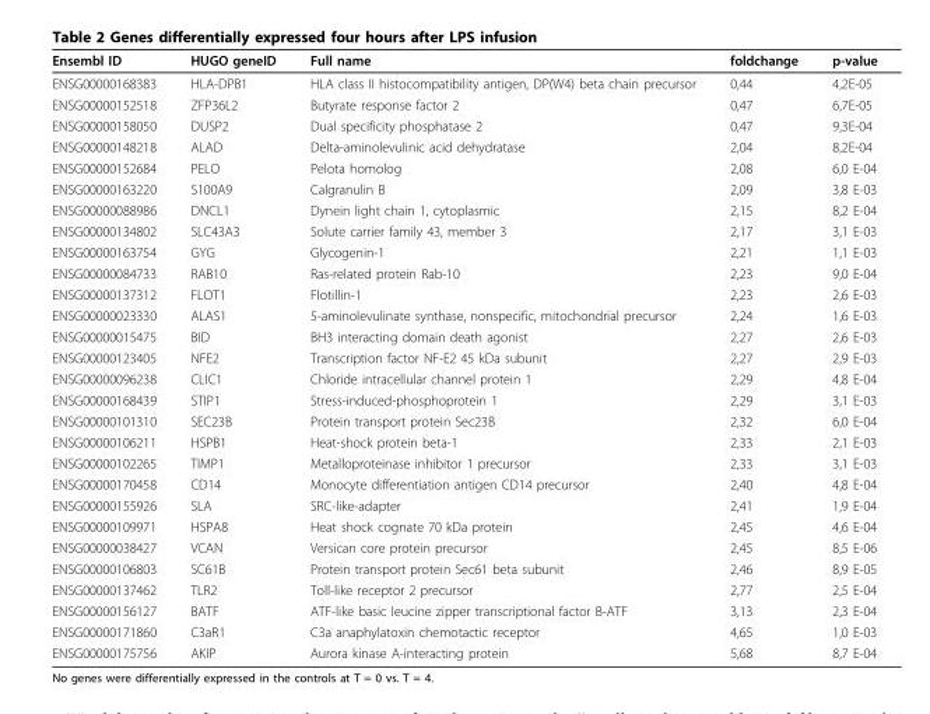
<table><thead><tr><td>Ensembl ID</td><td>HUGO geneID</td><td>Full name</td><td>foldchange</td><td>p-value</td></tr></thead><tbody><tr><td>ENSG00000168383</td><td>HLA-DPB1</td><td>HLA class II histocompatibility antigen, DP(W4) beta chain precursor</td><td>0,44</td><td>4,2E-05</td></tr><tr><td>ENSG00000152518</td><td>ZFP36L2</td><td>Butyrate response factor 2</td><td>0,47</td><td>6,7E-05</td></tr><tr><td>ENSG00000158050</td><td>DUSP2</td><td>Dual specificity phosphatase 2</td><td>0,47</td><td>9,3E-04</td></tr><tr><td>ENSG00000148218</td><td>ALAD</td><td>Delta-aminolevulinic acid dehydratase</td><td>2,04</td><td>8,2E-04</td></tr><tr><td>ENSG00000152684</td><td>PELO</td><td>Pelota homolog</td><td>2,08</td><td>6,0 E-04</td></tr><tr><td>ENSG00000163220</td><td>S100A9</td><td>Calgranulin B</td><td>2,09</td><td>3,8 E-03</td></tr><tr><td>ENSG00000088986</td><td>DNCL1</td><td>Dynein light chain 1, cytoplasmic</td><td>2,15</td><td>8,2 E-04</td></tr><tr><td>ENSG00000134802</td><td>SLC43A3</td><td>Solute carrier family 43, member 3</td><td>2,17</td><td>3,1 E-03</td></tr><tr><td>ENSG00000163754</td><td>GYG</td><td>Glycogenin-1</td><td>2,21</td><td>1,1 E-03</td></tr><tr><td>ENSG00000084733</td><td>RAB10</td><td>Ras-related protein Rab-10</td><td>2,23</td><td>9,0 E-04</td></tr><tr><td>ENSG00000137312</td><td>FLOT1</td><td>Flotillin-1</td><td>2,23</td><td>2,6 E-03</td></tr><tr><td>ENSG00000023330</td><td>ALAS1</td><td>5-aminolevulinate synthase, nonspecific, mitochondrial precursor</td><td>2,24</td><td>1,6 E-03</td></tr><tr><td>ENSG00000015475</td><td>BID</td><td>BH3 interacting domain death agonist</td><td>2,27</td><td>2,6 E-03</td></tr><tr><td>ENSG00000123405</td><td>NFE2</td><td>Transcription factor NF-E2 45 kDa subunit</td><td>2,27</td><td>2,9 E-03</td></tr><tr><td>ENSG00000096238</td><td>CLIC1</td><td>Chloride intracellular channel protein 1</td><td>2,29</td><td>4,8 E-04</td></tr><tr><td>ENSG00000168439</td><td>STIP1</td><td>Stress-induced-phosphoprotein 1</td><td>2,29</td><td>3,1 E-03</td></tr><tr><td>ENSG00000101310</td><td>SEC23B</td><td>Protein transport protein Sec23B</td><td>2,32</td><td>6,0 E-04</td></tr><tr><td>ENSG00000106211</td><td>HSPB1</td><td>Heat-shock protein beta-1</td><td>2,33</td><td>2,1 E-03</td></tr><tr><td>ENSG00000102265</td><td>TIMP1</td><td>Metalloproteinase inhibitor 1 precursor</td><td>2,33</td><td>3,1 E-03</td></tr><tr><td>ENSG00000170458</td><td>CD14</td><td>Monocyte differentiation antigen CD14 precursor</td><td>2,40</td><td>4,8 E-04</td></tr><tr><td>ENSG00000155926</td><td>SLA</td><td>SRC-like-adapter</td><td>2,41</td><td>1,9 E-04</td></tr><tr><td>ENSG00000109971</td><td>HSPA8</td><td>Heat shock cognate 70 kDa protein</td><td>2,45</td><td>4,6 E-04</td></tr><tr><td>ENSG00000038427</td><td>VCAN</td><td>Versican core protein precursor</td><td>2,45</td><td>8,5 E-06</td></tr><tr><td>ENSG00000106803</td><td>SC61B</td><td>Protein transport protein Sec61 beta subunit</td><td>2,46</td><td>8,9 E-05</td></tr><tr><td>ENSG00000137462</td><td>TLR2</td><td>Toll-like receptor 2 precursor</td><td>2,77</td><td>2,5 E-04</td></tr><tr><td>ENSG00000156127</td><td>BATF</td><td>ATF-like basic leucine zipper transcriptional factor B-ATF</td><td>3,13</td><td>2,3 E-04</td></tr><tr><td>ENSG00000171860</td><td>C3aR1</td><td>C3a anaphylatoxin chemotactic receptor</td><td>4,65</td><td>1,0 E-03</td></tr><tr><td>ENSG00000175756</td><td>AKIP</td><td>Aurora kinase A-interacting protein</td><td>5,68</td><td>8,7 E-04</td></tr></tbody></table>